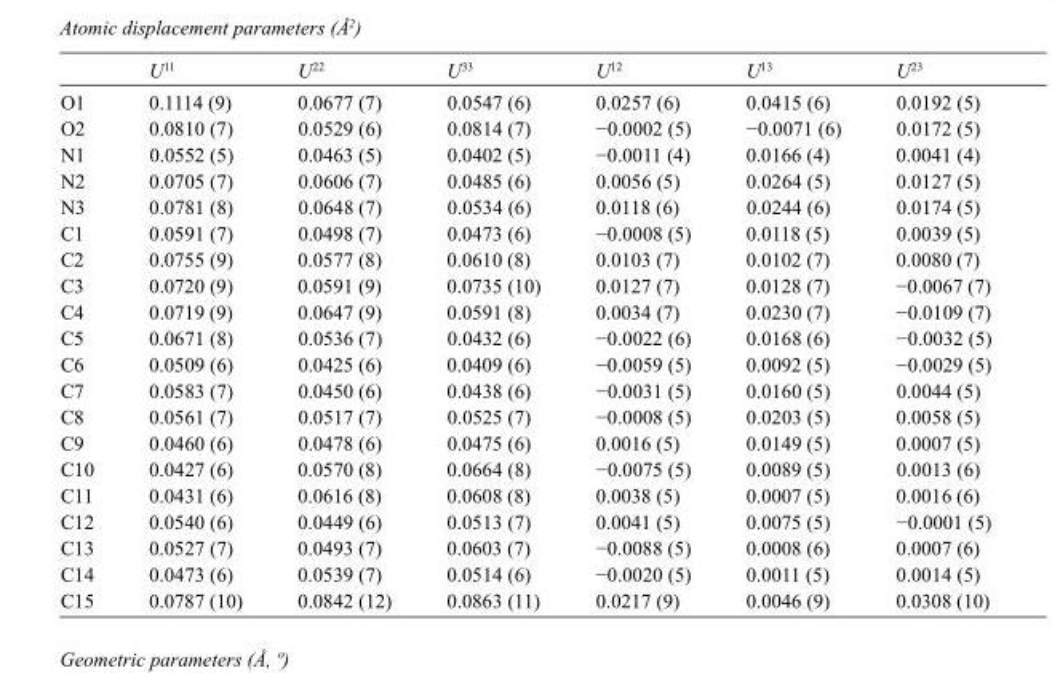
<table><thead><tr><td></td><td>U<sup>11</sup></td><td>U<sup>22</sup></td><td>U<sup>33</sup></td><td>U<sup>12</sup></td><td>U<sup>13</sup></td><td>U<sup>23</sup></td></tr></thead><tbody><tr><td>O1</td><td>0.1114 (9)</td><td>0.0677 (7)</td><td>0.0547 (6)</td><td>0.0257 (6)</td><td>0.0415 (6)</td><td>0.0192 (5)</td></tr><tr><td>O2</td><td>0.0810 (7)</td><td>0.0529 (6)</td><td>0.0814 (7)</td><td>−0.0002 (5)</td><td>−0.0071 (6)</td><td>0.0172 (5)</td></tr><tr><td>N1</td><td>0.0552 (5)</td><td>0.0463 (5)</td><td>0.0402 (5)</td><td>−0.0011 (4)</td><td>0.0166 (4)</td><td>0.0041 (4)</td></tr><tr><td>N2</td><td>0.0705 (7)</td><td>0.0606 (7)</td><td>0.0485 (6)</td><td>0.0056 (5)</td><td>0.0264 (5)</td><td>0.0127 (5)</td></tr><tr><td>N3</td><td>0.0781 (8)</td><td>0.0648 (7)</td><td>0.0534 (6)</td><td>0.0118 (6)</td><td>0.0244 (6)</td><td>0.0174 (5)</td></tr><tr><td>C1</td><td>0.0591 (7)</td><td>0.0498 (7)</td><td>0.0473 (6)</td><td>−0.0008 (5)</td><td>0.0118 (5)</td><td>0.0039 (5)</td></tr><tr><td>C2</td><td>0.0755 (9)</td><td>0.0577 (8)</td><td>0.0610 (8)</td><td>0.0103 (7)</td><td>0.0102 (7)</td><td>0.0080 (7)</td></tr><tr><td>C3</td><td>0.0720 (9)</td><td>0.0591 (9)</td><td>0.0735 (10)</td><td>0.0127 (7)</td><td>0.0128 (7)</td><td>−0.0067 (7)</td></tr><tr><td>C4</td><td>0.0719 (9)</td><td>0.0647 (9)</td><td>0.0591 (8)</td><td>0.0034 (7)</td><td>0.0230 (7)</td><td>−0.0109 (7)</td></tr><tr><td>C5</td><td>0.0671 (8)</td><td>0.0536 (7)</td><td>0.0432 (6)</td><td>−0.0022 (6)</td><td>0.0168 (6)</td><td>−0.0032 (5)</td></tr><tr><td>C6</td><td>0.0509 (6)</td><td>0.0425 (6)</td><td>0.0409 (6)</td><td>−0.0059 (5)</td><td>0.0092 (5)</td><td>−0.0029 (5)</td></tr><tr><td>C7</td><td>0.0583 (7)</td><td>0.0450 (6)</td><td>0.0438 (6)</td><td>−0.0031 (5)</td><td>0.0160 (5)</td><td>0.0044 (5)</td></tr><tr><td>C8</td><td>0.0561 (7)</td><td>0.0517 (7)</td><td>0.0525 (7)</td><td>−0.0008 (5)</td><td>0.0203 (5)</td><td>0.0058 (5)</td></tr><tr><td>C9</td><td>0.0460 (6)</td><td>0.0478 (6)</td><td>0.0475 (6)</td><td>0.0016 (5)</td><td>0.0149 (5)</td><td>0.0007 (5)</td></tr><tr><td>C10</td><td>0.0427 (6)</td><td>0.0570 (8)</td><td>0.0664 (8)</td><td>−0.0075 (5)</td><td>0.0089 (5)</td><td>0.0013 (6)</td></tr><tr><td>C11</td><td>0.0431 (6)</td><td>0.0616 (8)</td><td>0.0608 (8)</td><td>0.0038 (5)</td><td>0.0007 (5)</td><td>0.0016 (6)</td></tr><tr><td>C12</td><td>0.0540 (6)</td><td>0.0449 (6)</td><td>0.0513 (7)</td><td>0.0041 (5)</td><td>0.0075 (5)</td><td>−0.0001 (5)</td></tr><tr><td>C13</td><td>0.0527 (7)</td><td>0.0493 (7)</td><td>0.0603 (7)</td><td>−0.0088 (5)</td><td>0.0008 (6)</td><td>0.0007 (6)</td></tr><tr><td>C14</td><td>0.0473 (6)</td><td>0.0539 (7)</td><td>0.0514 (6)</td><td>−0.0020 (5)</td><td>0.0011 (5)</td><td>0.0014 (5)</td></tr><tr><td>C15</td><td>0.0787 (10)</td><td>0.0842 (12)</td><td>0.0863 (11)</td><td>0.0217 (9)</td><td>0.0046 (9)</td><td>0.0308 (10)</td></tr></tbody></table>